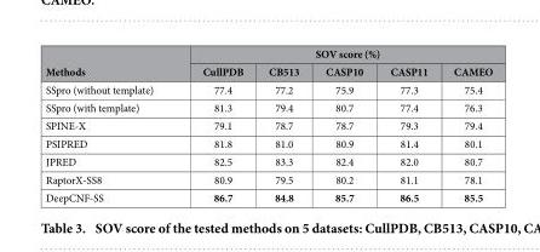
<table><thead><tr><td rowspan="2">Methods</td><td colspan="5">SOV score (%)</td></tr><tr><td>CullPDB</td><td>CB513</td><td>CASP10</td><td>CASP11</td><td>CAMEO</td></tr></thead><tbody><tr><td>SSpro (without template)</td><td>77.4</td><td>77.2</td><td>75.9</td><td>77.3</td><td>75.4</td></tr><tr><td>SSpro (with template)</td><td>81.3</td><td>79.4</td><td>80.7</td><td>77.4</td><td>76.3</td></tr><tr><td>SPINE-X</td><td>79.1</td><td>78.7</td><td>78.7</td><td>79.3</td><td>79.4</td></tr><tr><td>PSIPRED</td><td>81.8</td><td>81.0</td><td>80.9</td><td>81.4</td><td>80.1</td></tr><tr><td>JPRED</td><td>82.5</td><td>83.3</td><td>82.4</td><td>82.0</td><td>80.7</td></tr><tr><td>RaptorX-SS8</td><td>80.9</td><td>79.5</td><td>80.2</td><td>81.1</td><td>78.1</td></tr><tr><td>DeepCNF-SS</td><td>86.7</td><td>84.8</td><td>85.7</td><td>86.5</td><td>85.5</td></tr></tbody></table>